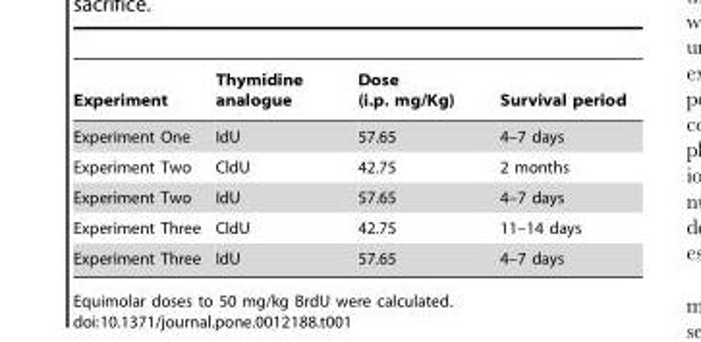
<table><thead><tr><td>Experiment</td><td>Thymidine analogue</td><td>Dose (i.p. mg/Kg)</td><td>Survival period</td></tr></thead><tbody><tr><td>Experiment One</td><td>IdU</td><td>57.65</td><td>4–7 days</td></tr><tr><td>Experiment Two</td><td>CldU</td><td>42.75</td><td>2 months</td></tr><tr><td>Experiment Two</td><td>IdU</td><td>57.65</td><td>4–7 days</td></tr><tr><td>Experiment Three</td><td>CldU</td><td>42.75</td><td>11–14 days</td></tr><tr><td>Experiment Three</td><td>IdU</td><td>57.65</td><td>4–7 days</td></tr></tbody></table>